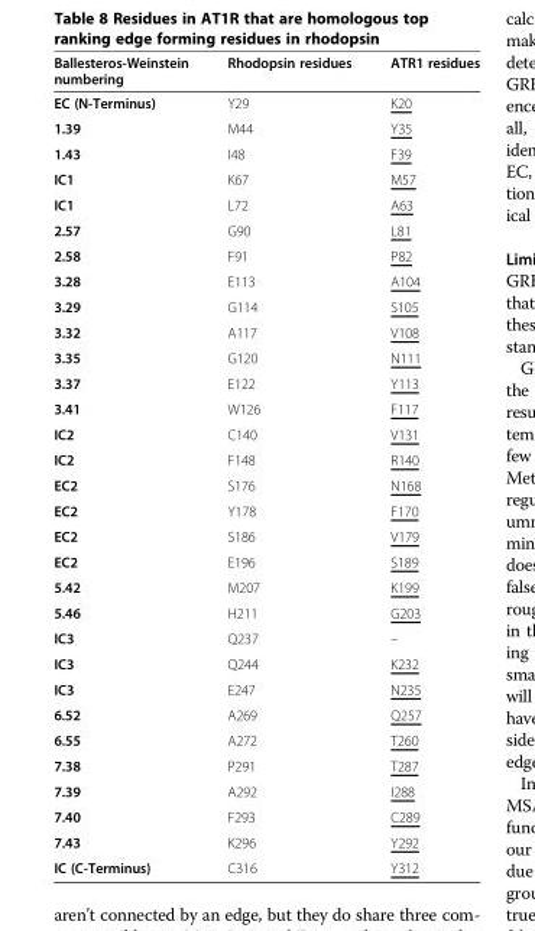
<table><thead><tr><td>Ballesteros-Weinstein numbering</td><td>Rhodopsin residues</td><td>ATR1 residues</td></tr></thead><tbody><tr><td>EC (N-Terminus)</td><td>Y29</td><td>K20</td></tr><tr><td>1.39</td><td>M44</td><td>Y35</td></tr><tr><td>1.43</td><td>I48</td><td>F39</td></tr><tr><td>IC1</td><td>K67</td><td>M57</td></tr><tr><td>IC1</td><td>L72</td><td>A63</td></tr><tr><td>2.57</td><td>G90</td><td>L81</td></tr><tr><td>2.58</td><td>F91</td><td>P82</td></tr><tr><td>3.28</td><td>E113</td><td>A104</td></tr><tr><td>3.29</td><td>G114</td><td>S105</td></tr><tr><td>3.32</td><td>A117</td><td>V108</td></tr><tr><td>3.35</td><td>G120</td><td>N111</td></tr><tr><td>3.37</td><td>E122</td><td>Y113</td></tr><tr><td>3.41</td><td>W126</td><td>F117</td></tr><tr><td>IC2</td><td>C140</td><td>V131</td></tr><tr><td>IC2</td><td>F148</td><td>R140</td></tr><tr><td>EC2</td><td>S176</td><td>N168</td></tr><tr><td>EC2</td><td>Y178</td><td>F170</td></tr><tr><td>EC2</td><td>S186</td><td>V179</td></tr><tr><td>EC2</td><td>E196</td><td>S189</td></tr><tr><td>5.42</td><td>M207</td><td>K199</td></tr><tr><td>5.46</td><td>H211</td><td>G203</td></tr><tr><td>IC3</td><td>Q237</td><td>–</td></tr><tr><td>IC3</td><td>Q244</td><td>K232</td></tr><tr><td>IC3</td><td>E247</td><td>N235</td></tr><tr><td>6.52</td><td>A269</td><td>Q257</td></tr><tr><td>6.55</td><td>A272</td><td>T260</td></tr><tr><td>7.38</td><td>P291</td><td>T287</td></tr><tr><td>7.39</td><td>A292</td><td>I288</td></tr><tr><td>7.40</td><td>F293</td><td>C289</td></tr><tr><td>7.43</td><td>K296</td><td>Y292</td></tr><tr><td>IC (C-Terminus)</td><td>C316</td><td>Y312</td></tr></tbody></table>